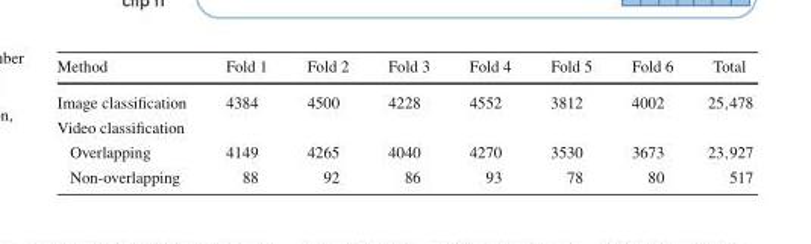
<table><thead><tr><td>Method</td><td>Fold 1</td><td>Fold 2</td><td>Fold 3</td><td>Fold 4</td><td>Fold 5</td><td>Fold 6</td><td>Total</td></tr></thead><tbody><tr><td>Image classification</td><td>4384</td><td>4500</td><td>4228</td><td>4552</td><td>3812</td><td>4002</td><td>25,478</td></tr><tr><td colspan="8">Video classification</td></tr><tr><td>Overlapping</td><td>4149</td><td>4265</td><td>4040</td><td>4270</td><td>3530</td><td>3673</td><td>23,927</td></tr><tr><td>Non-overlapping</td><td>88</td><td>92</td><td>86</td><td>93</td><td>78</td><td>80</td><td>517</td></tr></tbody></table>